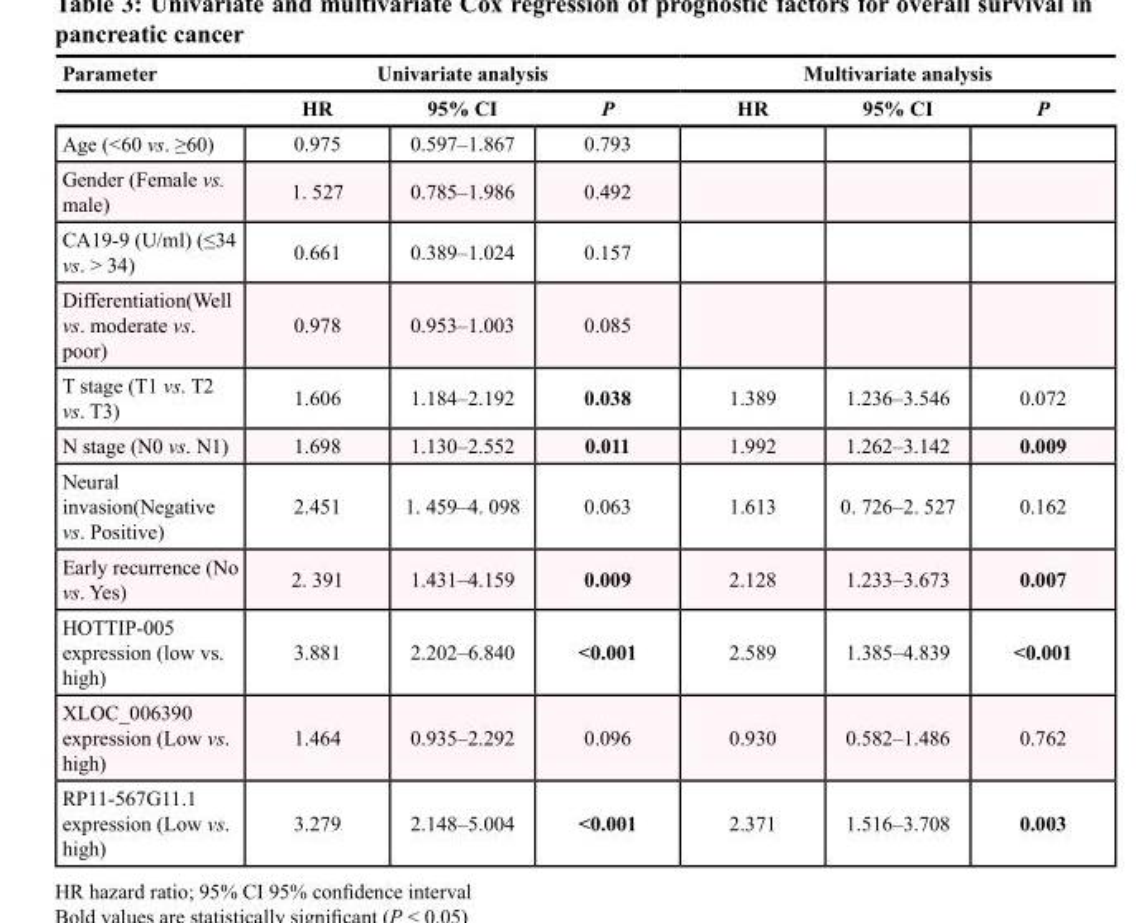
<table><thead><tr><td rowspan="2">Parameter</td><td colspan="3">Univariate analysis</td><td colspan="3">Multivariate analysis</td></tr><tr><td>HR</td><td>95% CI</td><td>P</td><td>HR</td><td>95% CI</td><td>P</td></tr></thead><tbody><tr><td>Age (&lt;60 vs. ≥60)</td><td>0.975</td><td>0.597–1.867</td><td>0.793</td><td></td><td></td><td></td></tr><tr><td>Gender (Female vs. male)</td><td>1. 527</td><td>0.785–1.986</td><td>0.492</td><td></td><td></td><td></td></tr><tr><td>CA19-9 (U/ml) (≤34 vs. &gt; 34)</td><td>0.661</td><td>0.389–1.024</td><td>0.157</td><td></td><td></td><td></td></tr><tr><td>Differentiation(Well vs. moderate vs. poor)</td><td>0.978</td><td>0.953–1.003</td><td>0.085</td><td></td><td></td><td></td></tr><tr><td>T stage (T1 vs. T2 vs. T3)</td><td>1.606</td><td>1.184–2.192</td><td>0.038</td><td>1.389</td><td>1.236–3.546</td><td>0.072</td></tr><tr><td>N stage (N0 vs. N1)</td><td>1.698</td><td>1.130–2.552</td><td>0.011</td><td>1.992</td><td>1.262–3.142</td><td>0.009</td></tr><tr><td>Neural invasion(Negative vs. Positive)</td><td>2.451</td><td>1. 459–4. 098</td><td>0.063</td><td>1.613</td><td>0. 726–2. 527</td><td>0.162</td></tr><tr><td>Early recurrence (No vs. Yes)</td><td>2. 391</td><td>1.431–4.159</td><td>0.009</td><td>2.128</td><td>1.233–3.673</td><td>0.007</td></tr><tr><td>HOTTIP-005 expression (low vs. high)</td><td>3.881</td><td>2.202–6.840</td><td>&lt;0.001</td><td>2.589</td><td>1.385–4.839</td><td>&lt;0.001</td></tr><tr><td>XLOC_006390 expression (Low vs. high)</td><td>1.464</td><td>0.935–2.292</td><td>0.096</td><td>0.930</td><td>0.582–1.486</td><td>0.762</td></tr><tr><td>RP11-567G11.1 expression (Low vs. high)</td><td>3.279</td><td>2.148–5.004</td><td>&lt;0.001</td><td>2.371</td><td>1.516–3.708</td><td>0.003</td></tr></tbody></table>